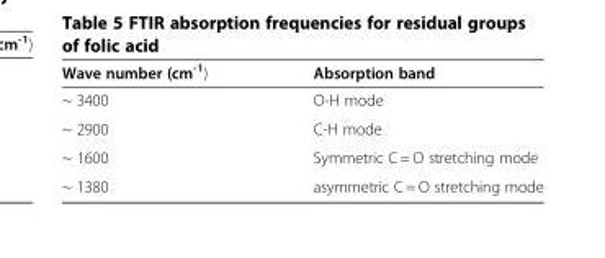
<table><thead><tr><td>Wave number (cm<sup>-1</sup>)</td><td>Absorption band</td></tr></thead><tbody><tr><td>~ 3400</td><td>O-H mode</td></tr><tr><td>~ 2900</td><td>C-H mode</td></tr><tr><td>~ 1600</td><td>Symmetric C = O stretching mode</td></tr><tr><td>~ 1380</td><td>asymmetric C = O stretching mode</td></tr></tbody></table>